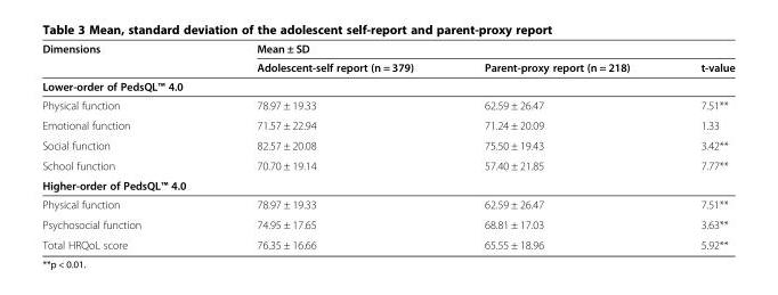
<table><thead><tr><td rowspan="2">Dimensions</td><td colspan="3">Mean ± SD</td></tr><tr><td>Adolescent-self report (n = 379)</td><td>Parent-proxy report (n = 218)</td><td>t-value</td></tr></thead><tbody><tr><td colspan="4">Lower-order of PedsQL™ 4.0</td></tr><tr><td>Physical function</td><td>78.97 ± 19.33</td><td>62.59 ± 26.47</td><td>7.51**</td></tr><tr><td>Emotional function</td><td>71.57 ± 22.94</td><td>71.24 ± 20.09</td><td>1.33</td></tr><tr><td>Social function</td><td>82.57 ± 20.08</td><td>75.50 ± 19.43</td><td>3.42**</td></tr><tr><td>School function</td><td>70.70 ± 19.14</td><td>57.40 ± 21.85</td><td>7.77**</td></tr><tr><td colspan="4">Higher-order of PedsQL™ 4.0</td></tr><tr><td>Physical function</td><td>78.97 ± 19.33</td><td>62.59 ± 26.47</td><td>7.51**</td></tr><tr><td>Psychosocial function</td><td>74.95 ± 17.65</td><td>68.81 ± 17.03</td><td>3.63**</td></tr><tr><td>Total HRQoL score</td><td>76.35 ± 16.66</td><td>65.55 ± 18.96</td><td>5.92**</td></tr></tbody></table>